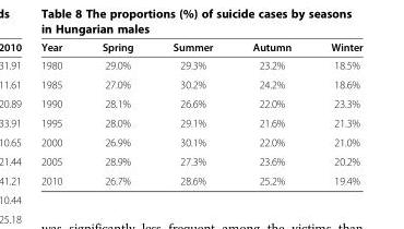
<table><thead><tr><td>Year</td><td>Spring</td><td>Summer</td><td>Autumn</td><td>Winter</td></tr></thead><tbody><tr><td>1980</td><td>29.0%</td><td>29.3%</td><td>23.2%</td><td>18.5%</td></tr><tr><td>1985</td><td>27.0%</td><td>30.2%</td><td>24.2%</td><td>18.6%</td></tr><tr><td>1990</td><td>28.1%</td><td>26.6%</td><td>22.0%</td><td>23.3%</td></tr><tr><td>1995</td><td>28.0%</td><td>29.1%</td><td>21.6%</td><td>21.3%</td></tr><tr><td>2000</td><td>26.9%</td><td>30.1%</td><td>22.0%</td><td>21.0%</td></tr><tr><td>2005</td><td>28.9%</td><td>27.3%</td><td>23.6%</td><td>20.2%</td></tr><tr><td>2010</td><td>26.7%</td><td>28.6%</td><td>25.2%</td><td>19.4%</td></tr></tbody></table>